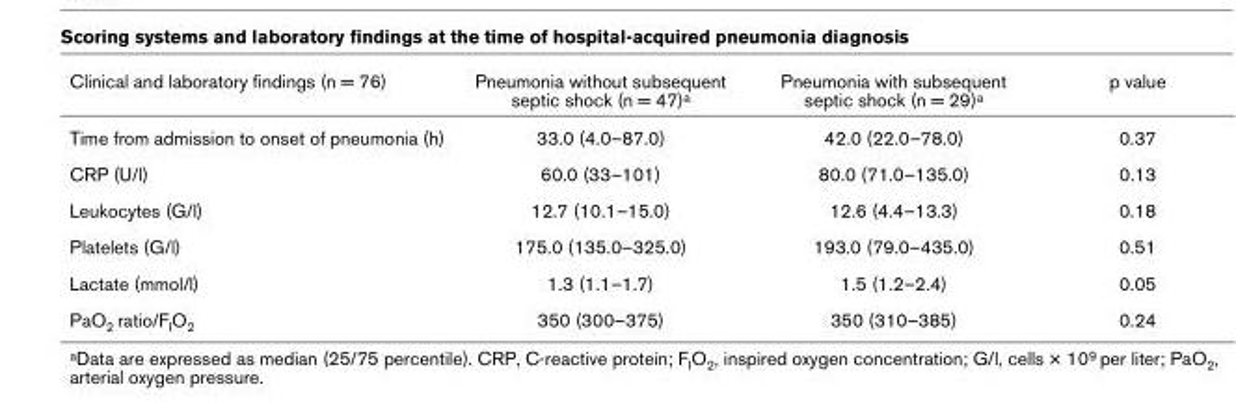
<table><thead><tr><td>Clinical and laboratory findings (n = 76)</td><td>Pneumonia without subsequent septic shock (n = 47)a</td><td>Pneumonia with subsequent septic shock (n = 29)a</td><td>p value</td></tr></thead><tbody><tr><td>Time from admission to onset of pneumonia (h)</td><td>33.0 (4.0–87.0)</td><td>42.0 (22.0–78.0)</td><td>0.37</td></tr><tr><td>CRP (U/l)</td><td>60.0 (33–101)</td><td>80.0 (71.0–135.0)</td><td>0.13</td></tr><tr><td>Leukocytes (G/l)</td><td>12.7 (10.1–15.0)</td><td>12.6 (4.4–13.3)</td><td>0.18</td></tr><tr><td>Platelets (G/l)</td><td>175.0 (135.0–325.0)</td><td>193.0 (79.0–435.0)</td><td>0.51</td></tr><tr><td>Lactate (mmol/l)</td><td>1.3 (1.1–1.7)</td><td>1.5 (1.2–2.4)</td><td>0.05</td></tr><tr><td>PaO2 ratio/FIO2</td><td>350 (300–375)</td><td>350 (310–385)</td><td>0.24</td></tr></tbody></table>